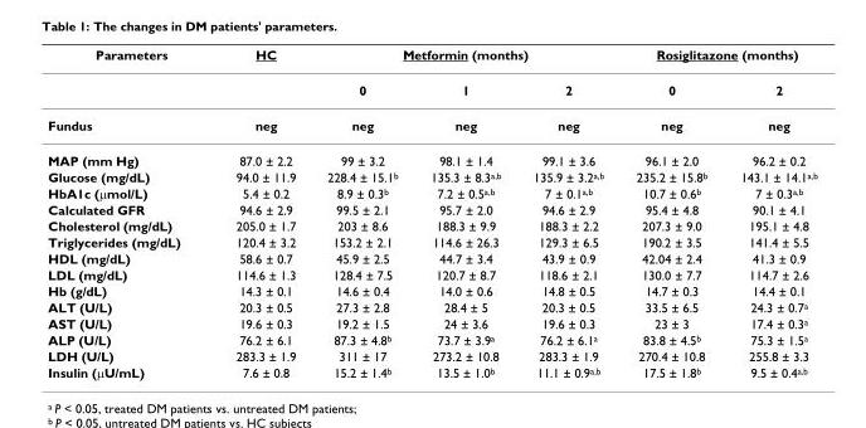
<table><thead><tr><td rowspan="2">Parameters</td><td rowspan="2">HC</td><td colspan="3">Metformin (months)</td><td colspan="2">Rosiglitazone (months)</td></tr><tr><td>0</td><td>1</td><td>2</td><td>0</td><td>2</td></tr></thead><tbody><tr><td>Fundus</td><td>neg</td><td>neg</td><td>neg</td><td>neg</td><td>neg</td><td>neg</td></tr><tr><td>MAP (mm Hg)</td><td>87.0 ± 2.2</td><td>99 ± 3.2</td><td>98.1 ± 1.4</td><td>99.1 ± 3.6</td><td>96.1 ± 2.0</td><td>96.2 ± 0.2</td></tr><tr><td>Glucose (mg/dL)</td><td>94.0 ± 11.9</td><td>228.4 ± 15.1<sup>b</sup></td><td>135.3 ± 8.3<sup>a,b</sup></td><td>135.9 ± 3.2<sup>a,b</sup></td><td>235.2 ± 15.8<sup>b</sup></td><td>143.1 ± 14.1<sup>a,b</sup></td></tr><tr><td>HbA1c (μmol/L)</td><td>5.4 ± 0.2</td><td>8.9 ± 0.3<sup>b</sup></td><td>7.2 ± 0.5<sup>a,b</sup></td><td>7 ± 0.1<sup>a,b</sup></td><td>10.7 ± 0.6<sup>b</sup></td><td>7 ± 0.3<sup>a,b</sup></td></tr><tr><td>Calculated GFR</td><td>94.6 ± 2.9</td><td>99.5 ± 2.1</td><td>95.7 ± 2.0</td><td>94.6 ± 2.9</td><td>95.4 ± 4.8</td><td>90.1 ± 4.1</td></tr><tr><td>Cholesterol (mg/dL)</td><td>205.0 ± 1.7</td><td>203 ± 8.6</td><td>188.3 ± 9.9</td><td>188.3 ± 2.2</td><td>207.3 ± 9.0</td><td>195.1 ± 4.8</td></tr><tr><td>Triglycerides (mg/dL)</td><td>120.4 ± 3.2</td><td>153.2 ± 2.1</td><td>114.6 ± 26.3</td><td>129.3 ± 6.5</td><td>190.2 ± 3.5</td><td>141.4 ± 5.5</td></tr><tr><td>HDL (mg/dL)</td><td>58.6 ± 0.7</td><td>45.9 ± 2.5</td><td>44.7 ± 3.4</td><td>43.9 ± 0.9</td><td>42.04 ± 2.4</td><td>41.3 ± 0.9</td></tr><tr><td>LDL (mg/dL)</td><td>114.6 ± 1.3</td><td>128.4 ± 7.5</td><td>120.7 ± 8.7</td><td>118.6 ± 2.1</td><td>130.0 ± 7.7</td><td>114.7 ± 2.6</td></tr><tr><td>Hb (g/dL)</td><td>14.3 ± 0.1</td><td>14.6 ± 0.4</td><td>14.0 ± 0.6</td><td>14.8 ± 0.5</td><td>14.7 ± 0.3</td><td>14.4 ± 0.1</td></tr><tr><td>ALT (U/L)</td><td>20.3 ± 0.5</td><td>27.3 ± 2.8</td><td>28.4 ± 5</td><td>20.3 ± 0.5</td><td>33.5 ± 6.5</td><td>24.3 ± 0.7<sup>a</sup></td></tr><tr><td>AST (U/L)</td><td>19.6 ± 0.3</td><td>19.2 ± 1.5</td><td>24 ± 3.6</td><td>19.6 ± 0.3</td><td>23 ± 3</td><td>17.4 ± 0.3<sup>a</sup></td></tr><tr><td>ALP (U/L)</td><td>76.2 ± 6.1</td><td>87.3 ± 4.8<sup>b</sup></td><td>73.7 ± 3.9<sup>a</sup></td><td>76.2 ± 6.1<sup>a</sup></td><td>83.8 ± 4.5<sup>b</sup></td><td>75.3 ± 1.5<sup>a</sup></td></tr><tr><td>LDH (U/L)</td><td>283.3 ± 1.9</td><td>311 ± 17</td><td>273.2 ± 10.8</td><td>283.3 ± 1.9</td><td>270.4 ± 10.8</td><td>255.8 ± 3.3</td></tr><tr><td>Insulin (μU/mL)</td><td>7.6 ± 0.8</td><td>15.2 ± 1.4<sup>b</sup></td><td>13.5 ± 1.0<sup>b</sup></td><td>11.1 ± 0.9<sup>a,b</sup></td><td>17.5 ± 1.8<sup>b</sup></td><td>9.5 ± 0.4<sup>a,b</sup></td></tr></tbody></table>